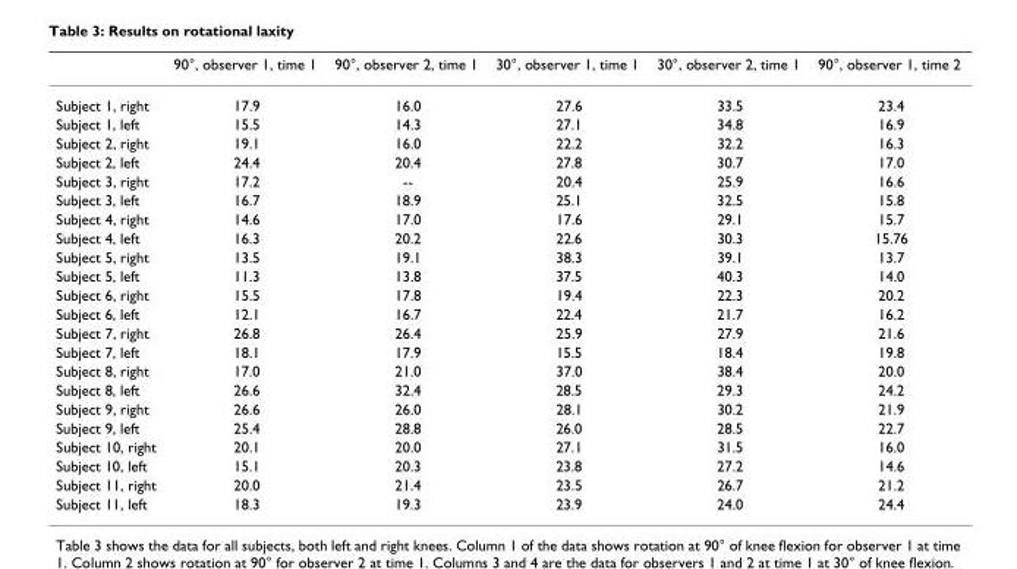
<table><thead><tr><td></td><td>90°, observer 1, time 1</td><td>90°, observer 2, time 1</td><td>30°, observer 1, time 1</td><td>30°, observer 2, time 1</td><td>90°, observer 1, time 2</td></tr></thead><tbody><tr><td>Subject 1, right</td><td>17.9</td><td>16.0</td><td>27.6</td><td>33.5</td><td>23.4</td></tr><tr><td>Subject 1, left</td><td>15.5</td><td>14.3</td><td>27.1</td><td>34.8</td><td>16.9</td></tr><tr><td>Subject 2, right</td><td>19.1</td><td>16.0</td><td>22.2</td><td>32.2</td><td>16.3</td></tr><tr><td>Subject 2, left</td><td>24.4</td><td>20.4</td><td>27.8</td><td>30.7</td><td>17.0</td></tr><tr><td>Subject 3, right</td><td>17.2</td><td>--</td><td>20.4</td><td>25.9</td><td>16.6</td></tr><tr><td>Subject 3, left</td><td>16.7</td><td>18.9</td><td>25.1</td><td>32.5</td><td>15.8</td></tr><tr><td>Subject 4, right</td><td>14.6</td><td>17.0</td><td>17.6</td><td>29.1</td><td>15.7</td></tr><tr><td>Subject 4, left</td><td>16.3</td><td>20.2</td><td>22.6</td><td>30.3</td><td>15.76</td></tr><tr><td>Subject 5, right</td><td>13.5</td><td>19.1</td><td>38.3</td><td>39.1</td><td>13.7</td></tr><tr><td>Subject 5, left</td><td>11.3</td><td>13.8</td><td>37.5</td><td>40.3</td><td>14.0</td></tr><tr><td>Subject 6, right</td><td>15.5</td><td>17.8</td><td>19.4</td><td>22.3</td><td>20.2</td></tr><tr><td>Subject 6, left</td><td>12.1</td><td>16.7</td><td>22.4</td><td>21.7</td><td>16.2</td></tr><tr><td>Subject 7, right</td><td>26.8</td><td>26.4</td><td>25.9</td><td>27.9</td><td>21.6</td></tr><tr><td>Subject 7, left</td><td>18.1</td><td>17.9</td><td>15.5</td><td>18.4</td><td>19.8</td></tr><tr><td>Subject 8, right</td><td>17.0</td><td>21.0</td><td>37.0</td><td>38.4</td><td>20.0</td></tr><tr><td>Subject 8, left</td><td>26.6</td><td>32.4</td><td>28.5</td><td>29.3</td><td>24.2</td></tr><tr><td>Subject 9, right</td><td>26.6</td><td>26.0</td><td>28.1</td><td>30.2</td><td>21.9</td></tr><tr><td>Subject 9, left</td><td>25.4</td><td>28.8</td><td>26.0</td><td>28.5</td><td>22.7</td></tr><tr><td>Subject 10, right</td><td>20.1</td><td>20.0</td><td>27.1</td><td>31.5</td><td>16.0</td></tr><tr><td>Subject 10, left</td><td>15.1</td><td>20.3</td><td>23.8</td><td>27.2</td><td>14.6</td></tr><tr><td>Subject 11, right</td><td>20.0</td><td>21.4</td><td>23.5</td><td>26.7</td><td>21.2</td></tr><tr><td>Subject 11, left</td><td>18.3</td><td>19.3</td><td>23.9</td><td>24.0</td><td>24.4</td></tr></tbody></table>